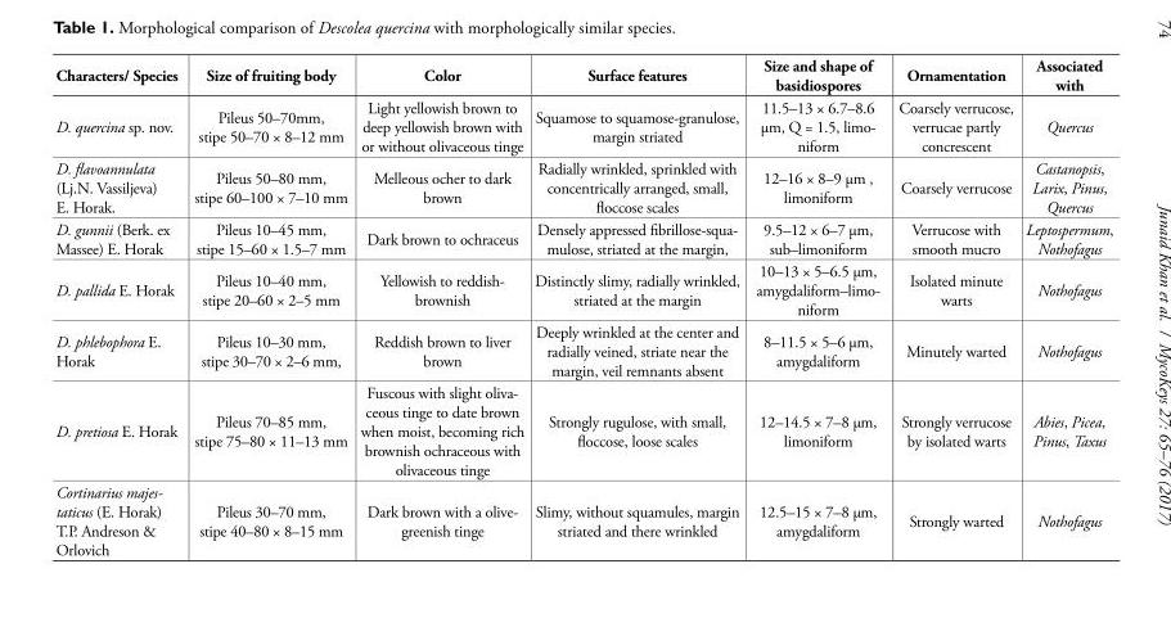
<table><thead><tr><td>Characters/ Species</td><td>Size of fruiting body</td><td>Color</td><td>Surface features</td><td>Size and shape of basidiospores</td><td>Ornamentation</td><td>Associated with</td></tr></thead><tbody><tr><td>D. quercina sp. nov.</td><td>Pileus 50–70mm, stipe 50–70 × 8–12 mm</td><td>Light yellowish brown to deep yellowish brown with or without olivaceous tinge</td><td>Squamose to squamose-granulose, margin striated</td><td>11.5–13 × 6.7–8.6 µm, Q = 1.5, limo- niform</td><td>Coarsely verrucose, verrucae partly concrescent</td><td>Quercus</td></tr><tr><td>D. flavoannulata (Lj.N. Vassiljeva) E. Horak.</td><td>Pileus 50–80 mm, stipe 60–100 × 7–10 mm</td><td>Melleous ocher to dark brown</td><td>Radially wrinkled, sprinkled with concentrically arranged, small, floccose scales</td><td>12–16 × 8–9 µm , limoniform</td><td>Coarsely verrucose</td><td>Castanopsis, Larix, Pinus, Quercus</td></tr><tr><td>D. gunnii (Berk. ex Massee) E. Horak</td><td>Pileus 10–45 mm, stipe 15–60 × 1.5–7 mm</td><td>Dark brown to ochraceus</td><td>Densely appressed fibrillose-squa- mulose, striated at the margin,</td><td>9.5–12 × 6–7 µm, sub–limoniform</td><td>Verrucose with smooth mucro</td><td>Leptospermum, Nothofagus</td></tr><tr><td>D. pallida E. Horak</td><td>Pileus 10–40 mm, stipe 20–60 × 2–5 mm</td><td>Yellowish to reddish- brownish</td><td>Distinctly slimy, radially wrinkled, striated at the margin</td><td>10–13 × 5–6.5 µm, amygdaliform–limo- niform</td><td>Isolated minute warts</td><td>Nothofagus</td></tr><tr><td>D. phlebophora E. Horak</td><td>Pileus 10–30 mm, stipe 30–70 × 2–6 mm,</td><td>Reddish brown to liver brown</td><td>Deeply wrinkled at the center and radially veined, striate near the margin, veil remnants absent</td><td>8–11.5 × 5–6 µm, amygdaliform</td><td>Minutely warted</td><td>Nothofagus</td></tr><tr><td>D. pretiosa E. Horak</td><td>Pileus 70–85 mm, stipe 75–80 × 11–13 mm</td><td>Fuscous with slight oliva- ceous tinge to date brown when moist, becoming rich brownish ochraceous with olivaceous tinge</td><td>Strongly rugulose, with small, floccose, loose scales</td><td>12–14.5 × 7–8 µm, limoniform</td><td>Strongly verrucose by isolated warts</td><td>Abies, Picea, Pinus, Taxus</td></tr><tr><td>Cortinarius majes- taticus (E. Horak) T.P. Andreson &amp; Orlovich</td><td>Pileus 30–70 mm, stipe 40–80 × 8–15 mm</td><td>Dark brown with a olive- greenish tinge</td><td>Slimy, without squamules, margin striated and there wrinkled</td><td>12.5–15 × 7–8 µm, amygdaliform</td><td>Strongly warted</td><td>Nothofagus</td></tr></tbody></table>